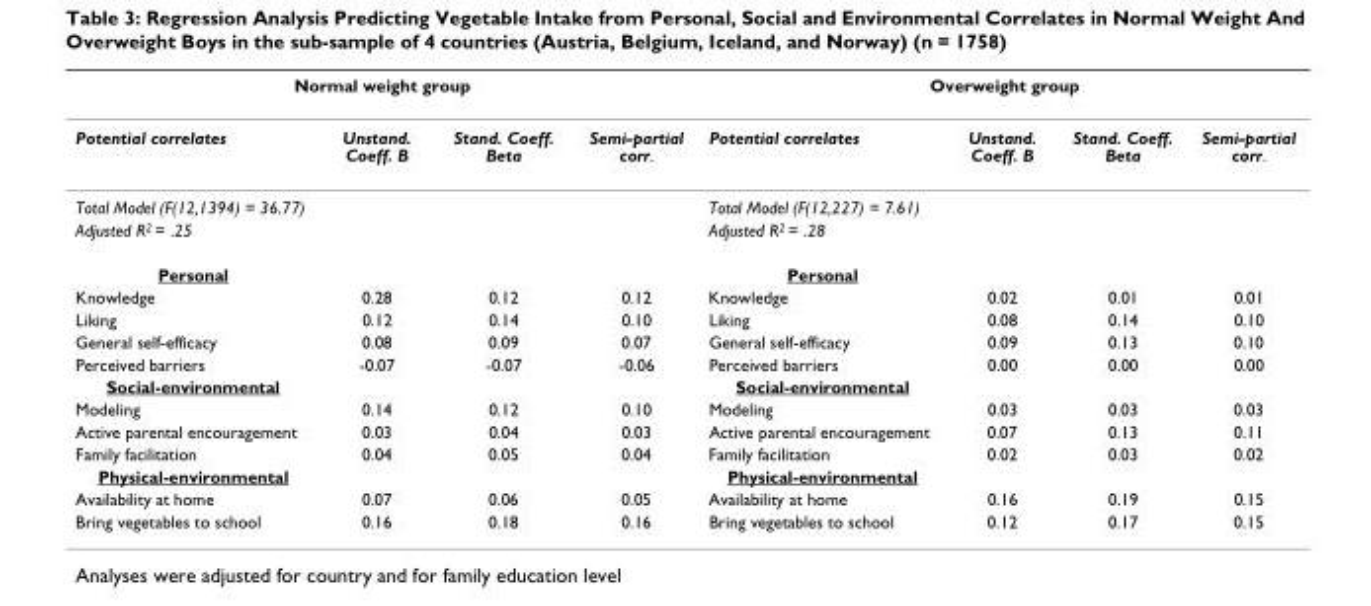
<table><thead><tr><td colspan="4">Normal weight group</td><td colspan="4">Overweight group</td></tr><tr><td>Potential correlates</td><td>Unstand. Coeff. B</td><td>Stand. Coeff. Beta</td><td>Semi-partial corr.</td><td>Potential correlates</td><td>Unstand. Coeff. B</td><td>Stand. Coeff. Beta</td><td>Semi-partial corr.</td></tr></thead><tbody><tr><td>Total Model (F(12,1394) = 36.77)</td><td></td><td></td><td></td><td>Total Model (F(12,227) = 7.61)</td><td></td><td></td><td></td></tr><tr><td>Adjusted R<sup>2</sup> = .25</td><td></td><td></td><td></td><td>Adjusted R<sup>2</sup> = .28</td><td></td><td></td><td></td></tr><tr><td>Personal</td><td></td><td></td><td></td><td>Personal</td><td></td><td></td><td></td></tr><tr><td>Knowledge</td><td>0.28</td><td>0.12</td><td>0.12</td><td>Knowledge</td><td>0.02</td><td>0.01</td><td>0.01</td></tr><tr><td>Liking</td><td>0.12</td><td>0.14</td><td>0.10</td><td>Liking</td><td>0.08</td><td>0.14</td><td>0.10</td></tr><tr><td>General self-efficacy</td><td>0.08</td><td>0.09</td><td>0.07</td><td>General self-efficacy</td><td>0.09</td><td>0.13</td><td>0.10</td></tr><tr><td>Perceived barriers</td><td>-0.07</td><td>-0.07</td><td>-0.06</td><td>Perceived barriers</td><td>0.00</td><td>0.00</td><td>0.00</td></tr><tr><td>Social-environmental</td><td></td><td></td><td></td><td>Social-environmental</td><td></td><td></td><td></td></tr><tr><td>Modeling</td><td>0.14</td><td>0.12</td><td>0.10</td><td>Modeling</td><td>0.03</td><td>0.03</td><td>0.03</td></tr><tr><td>Active parental encouragement</td><td>0.03</td><td>0.04</td><td>0.03</td><td>Active parental encouragement</td><td>0.07</td><td>0.13</td><td>0.11</td></tr><tr><td>Family facilitation</td><td>0.04</td><td>0.05</td><td>0.04</td><td>Family facilitation</td><td>0.02</td><td>0.03</td><td>0.02</td></tr><tr><td>Physical-environmental</td><td></td><td></td><td></td><td>Physical-environmental</td><td></td><td></td><td></td></tr><tr><td>Availability at home</td><td>0.07</td><td>0.06</td><td>0.05</td><td>Availability at home</td><td>0.16</td><td>0.19</td><td>0.15</td></tr><tr><td>Bring vegetables to school</td><td>0.16</td><td>0.18</td><td>0.16</td><td>Bring vegetables to school</td><td>0.12</td><td>0.17</td><td>0.15</td></tr></tbody></table>